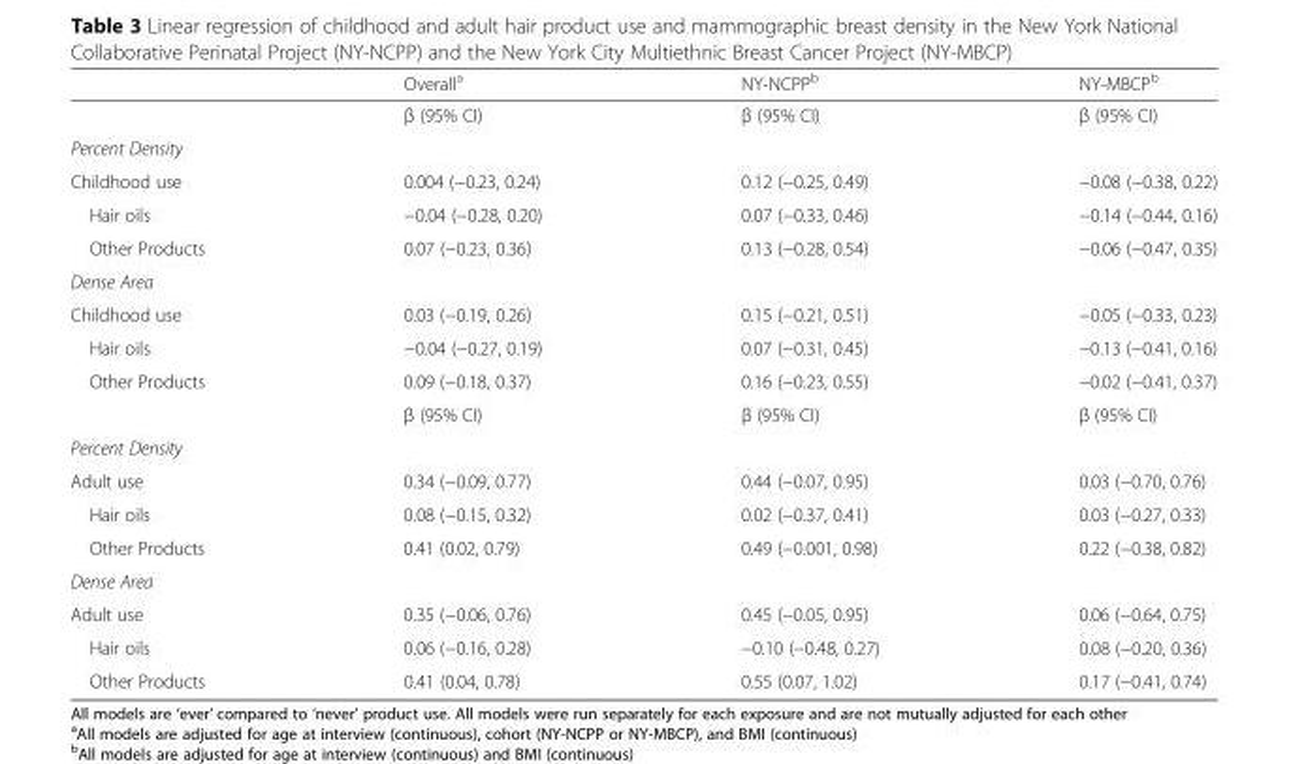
<table><thead><tr><td></td><td>Overall<sup>a</sup></td><td>NY-NCPP<sup>b</sup></td><td>NY-MBCP<sup>b</sup></td></tr></thead><tbody><tr><td></td><td>β (95% CI)</td><td>β (95% CI)</td><td>β (95% CI)</td></tr><tr><td colspan="4">Percent Density</td></tr><tr><td>Childhood use</td><td>0.004 (−0.23, 0.24)</td><td>0.12 (−0.25, 0.49)</td><td>−0.08 (−0.38, 0.22)</td></tr><tr><td>Hair oils</td><td>−0.04 (−0.28, 0.20)</td><td>0.07 (−0.33, 0.46)</td><td>−0.14 (−0.44, 0.16)</td></tr><tr><td>Other Products</td><td>0.07 (−0.23, 0.36)</td><td>0.13 (−0.28, 0.54)</td><td>−0.06 (−0.47, 0.35)</td></tr><tr><td colspan="4">Dense Area</td></tr><tr><td>Childhood use</td><td>0.03 (−0.19, 0.26)</td><td>0.15 (−0.21, 0.51)</td><td>−0.05 (−0.33, 0.23)</td></tr><tr><td>Hair oils</td><td>−0.04 (−0.27, 0.19)</td><td>0.07 (−0.31, 0.45)</td><td>−0.13 (−0.41, 0.16)</td></tr><tr><td rowspan="2">Other Products</td><td>0.09 (−0.18, 0.37)</td><td>0.16 (−0.23, 0.55)</td><td>−0.02 (−0.41, 0.37)</td></tr><tr><td>β (95% CI)</td><td>β (95% CI)</td><td>β (95% CI)</td></tr><tr><td colspan="4">Percent Density</td></tr><tr><td>Adult use</td><td>0.34 (−0.09, 0.77)</td><td>0.44 (−0.07, 0.95)</td><td>0.03 (−0.70, 0.76)</td></tr><tr><td>Hair oils</td><td>0.08 (−0.15, 0.32)</td><td>0.02 (−0.37, 0.41)</td><td>0.03 (−0.27, 0.33)</td></tr><tr><td>Other Products</td><td>0.41 (0.02, 0.79)</td><td>0.49 (−0.001, 0.98)</td><td>0.22 (−0.38, 0.82)</td></tr><tr><td colspan="4">Dense Area</td></tr><tr><td>Adult use</td><td>0.35 (−0.06, 0.76)</td><td>0.45 (−0.05, 0.95)</td><td>0.06 (−0.64, 0.75)</td></tr><tr><td>Hair oils</td><td>0.06 (−0.16, 0.28)</td><td>−0.10 (−0.48, 0.27)</td><td>0.08 (−0.20, 0.36)</td></tr><tr><td>Other Products</td><td>0.41 (0.04, 0.78)</td><td>0.55 (0.07, 1.02)</td><td>0.17 (−0.41, 0.74)</td></tr></tbody></table>